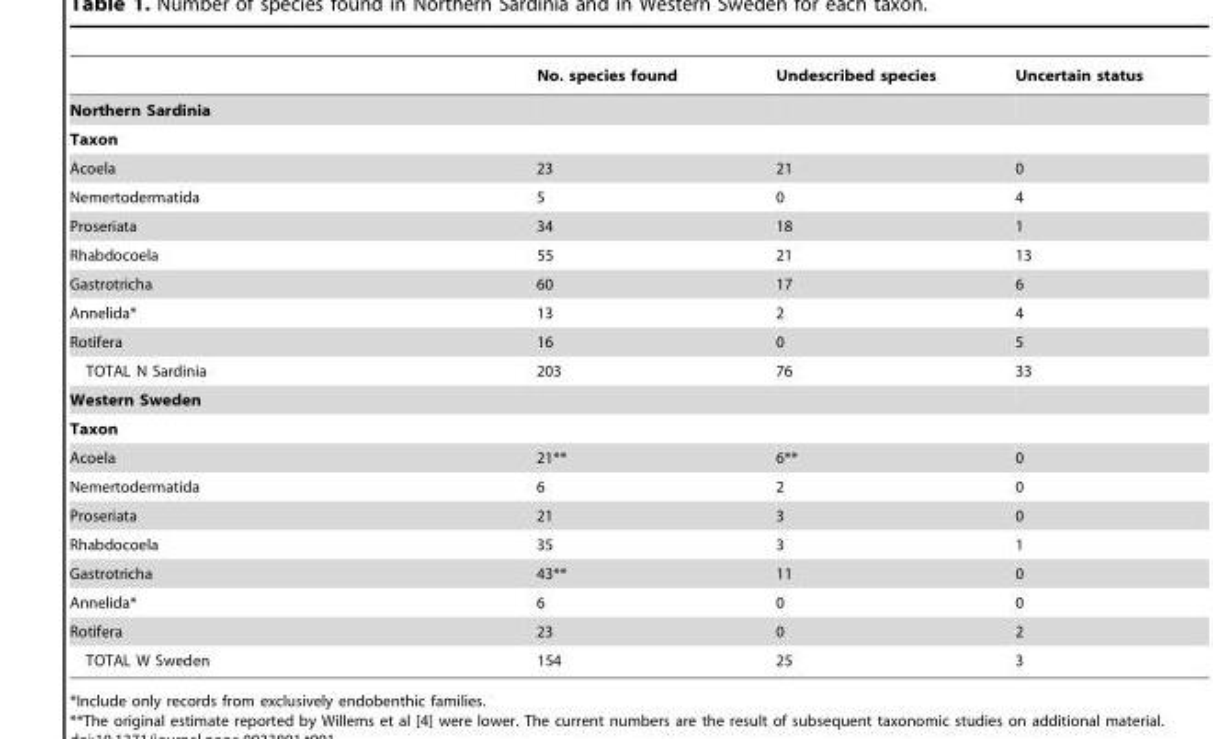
<table><thead><tr><td></td><td>No. species found</td><td>Undescribed species</td><td>Uncertain status</td></tr></thead><tbody><tr><td colspan="4">Northern Sardinia</td></tr><tr><td colspan="4">Taxon</td></tr><tr><td>Acoela</td><td>23</td><td>21</td><td>0</td></tr><tr><td>Nemertodermatida</td><td>5</td><td>0</td><td>4</td></tr><tr><td>Proseriata</td><td>34</td><td>18</td><td>1</td></tr><tr><td>Rhabdocoela</td><td>55</td><td>21</td><td>13</td></tr><tr><td>Gastrotricha</td><td>60</td><td>17</td><td>6</td></tr><tr><td>Annelida*</td><td>13</td><td>2</td><td>4</td></tr><tr><td>Rotifera</td><td>16</td><td>0</td><td>5</td></tr><tr><td>TOTAL N Sardinia</td><td>203</td><td>76</td><td>33</td></tr><tr><td colspan="4">Western Sweden</td></tr><tr><td colspan="4">Taxon</td></tr><tr><td>Acoela</td><td>21**</td><td>6**</td><td>0</td></tr><tr><td>Nemertodermatida</td><td>6</td><td>2</td><td>0</td></tr><tr><td>Proseriata</td><td>21</td><td>3</td><td>0</td></tr><tr><td>Rhabdocoela</td><td>35</td><td>3</td><td>1</td></tr><tr><td>Gastrotricha</td><td>43**</td><td>11</td><td>0</td></tr><tr><td>Annelida*</td><td>6</td><td>0</td><td>0</td></tr><tr><td>Rotifera</td><td>23</td><td>0</td><td>2</td></tr><tr><td>TOTAL W Sweden</td><td>154</td><td>25</td><td>3</td></tr></tbody></table>